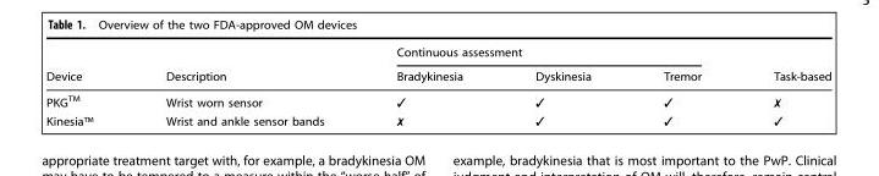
<table><thead><tr><td rowspan="2">Device</td><td rowspan="2">Description</td><td colspan="3">Continuous assessment</td><td rowspan="2">Task-based</td></tr><tr><td>Bradykinesia</td><td>Dyskinesia</td><td>Tremor</td></tr></thead><tbody><tr><td>PKG<sup>TM</sup></td><td>Wrist worn sensor</td><td>✓</td><td>✓</td><td>✓</td><td>✗</td></tr><tr><td>Kinesia™</td><td>Wrist and ankle sensor bands</td><td>✗</td><td>✓</td><td>✓</td><td>✓</td></tr></tbody></table>